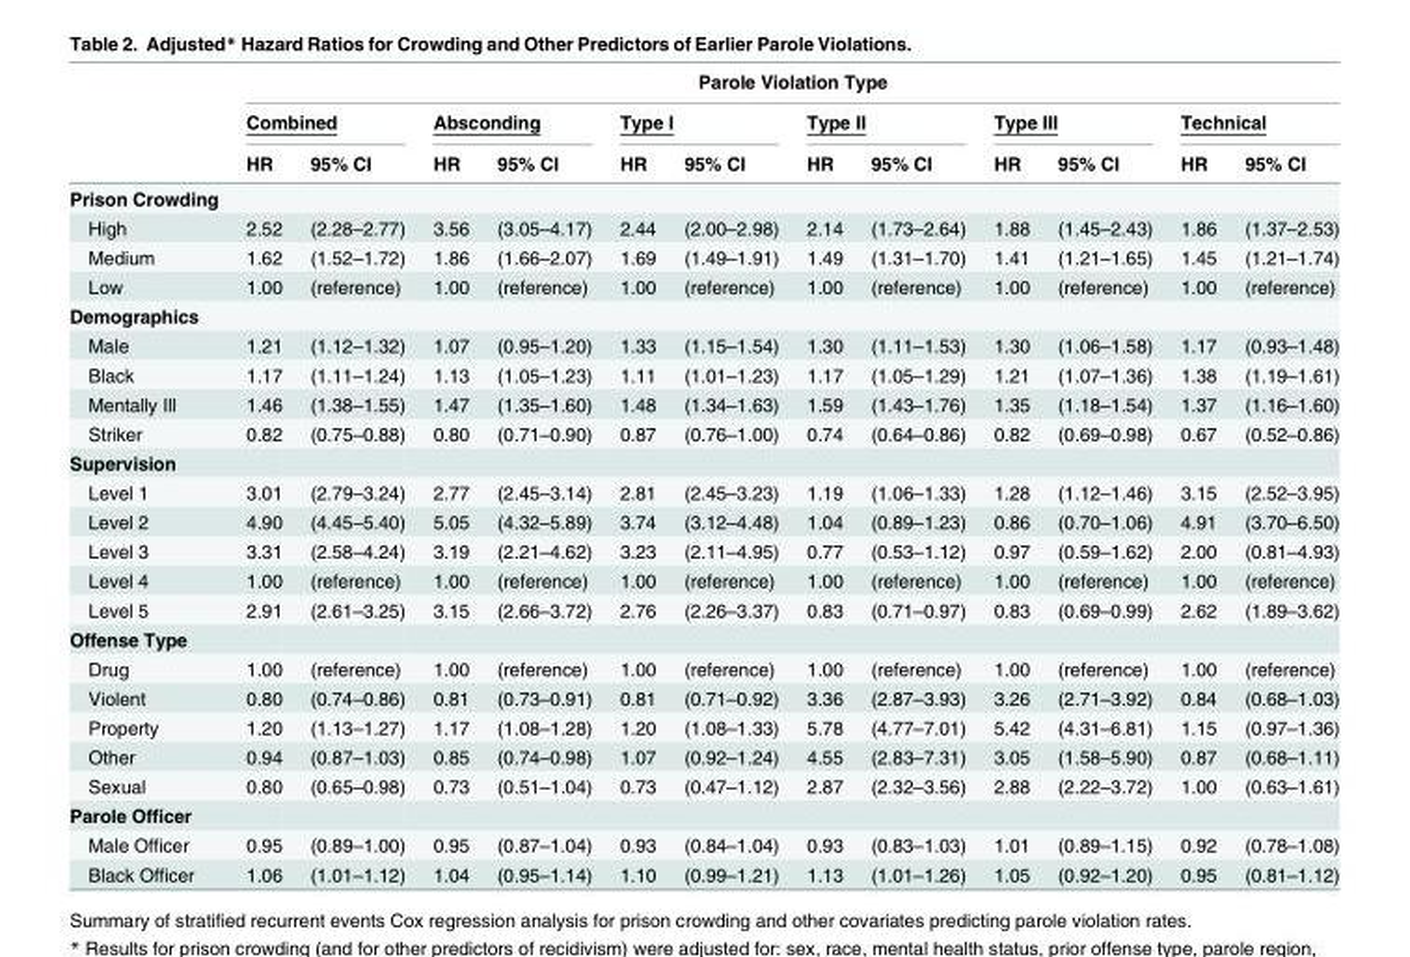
<table><thead><tr><td rowspan="3"></td><td colspan="12">Parole Violation Type</td></tr><tr><td colspan="2">Combined</td><td colspan="2">Absconding</td><td colspan="2">Type I</td><td colspan="2">Type II</td><td colspan="2">Type III</td><td colspan="2">Technical</td></tr><tr><td>HR</td><td>95% CI</td><td>HR</td><td>95% CI</td><td>HR</td><td>95% CI</td><td>HR</td><td>95% CI</td><td>HR</td><td>95% CI</td><td>HR</td><td>95% CI</td></tr></thead><tbody><tr><td colspan="13">Prison Crowding</td></tr><tr><td>High</td><td>2.52</td><td>(2.28–2.77)</td><td>3.56</td><td>(3.05–4.17)</td><td>2.44</td><td>(2.00–2.98)</td><td>2.14</td><td>(1.73–2.64)</td><td>1.88</td><td>(1.45–2.43)</td><td>1.86</td><td>(1.37–2.53)</td></tr><tr><td>Medium</td><td>1.62</td><td>(1.52–1.72)</td><td>1.86</td><td>(1.66–2.07)</td><td>1.69</td><td>(1.49–1.91)</td><td>1.49</td><td>(1.31–1.70)</td><td>1.41</td><td>(1.21–1.65)</td><td>1.45</td><td>(1.21–1.74)</td></tr><tr><td>Low</td><td>1.00</td><td>(reference)</td><td>1.00</td><td>(reference)</td><td>1.00</td><td>(reference)</td><td>1.00</td><td>(reference)</td><td>1.00</td><td>(reference)</td><td>1.00</td><td>(reference)</td></tr><tr><td colspan="13">Demographics</td></tr><tr><td>Male</td><td>1.21</td><td>(1.12–1.32)</td><td>1.07</td><td>(0.95–1.20)</td><td>1.33</td><td>(1.15–1.54)</td><td>1.30</td><td>(1.11–1.53)</td><td>1.30</td><td>(1.06–1.58)</td><td>1.17</td><td>(0.93–1.48)</td></tr><tr><td>Black</td><td>1.17</td><td>(1.11–1.24)</td><td>1.13</td><td>(1.05–1.23)</td><td>1.11</td><td>(1.01–1.23)</td><td>1.17</td><td>(1.05–1.29)</td><td>1.21</td><td>(1.07–1.36)</td><td>1.38</td><td>(1.19–1.61)</td></tr><tr><td>Mentally Ill</td><td>1.46</td><td>(1.38–1.55)</td><td>1.47</td><td>(1.35–1.60)</td><td>1.48</td><td>(1.34–1.63)</td><td>1.59</td><td>(1.43–1.76)</td><td>1.35</td><td>(1.18–1.54)</td><td>1.37</td><td>(1.16–1.60)</td></tr><tr><td>Striker</td><td>0.82</td><td>(0.75–0.88)</td><td>0.80</td><td>(0.71–0.90)</td><td>0.87</td><td>(0.76–1.00)</td><td>0.74</td><td>(0.64–0.86)</td><td>0.82</td><td>(0.69–0.98)</td><td>0.67</td><td>(0.52–0.86)</td></tr><tr><td colspan="13">Supervision</td></tr><tr><td>Level 1</td><td>3.01</td><td>(2.79–3.24)</td><td>2.77</td><td>(2.45–3.14)</td><td>2.81</td><td>(2.45–3.23)</td><td>1.19</td><td>(1.06–1.33)</td><td>1.28</td><td>(1.12–1.46)</td><td>3.15</td><td>(2.52–3.95)</td></tr><tr><td>Level 2</td><td>4.90</td><td>(4.45–5.40)</td><td>5.05</td><td>(4.32–5.89)</td><td>3.74</td><td>(3.12–4.48)</td><td>1.04</td><td>(0.89–1.23)</td><td>0.86</td><td>(0.70–1.06)</td><td>4.91</td><td>(3.70–6.50)</td></tr><tr><td>Level 3</td><td>3.31</td><td>(2.58–4.24)</td><td>3.19</td><td>(2.21–4.62)</td><td>3.23</td><td>(2.11–4.95)</td><td>0.77</td><td>(0.53–1.12)</td><td>0.97</td><td>(0.59–1.62)</td><td>2.00</td><td>(0.81–4.93)</td></tr><tr><td>Level 4</td><td>1.00</td><td>(reference)</td><td>1.00</td><td>(reference)</td><td>1.00</td><td>(reference)</td><td>1.00</td><td>(reference)</td><td>1.00</td><td>(reference)</td><td>1.00</td><td>(reference)</td></tr><tr><td>Level 5</td><td>2.91</td><td>(2.61–3.25)</td><td>3.15</td><td>(2.66–3.72)</td><td>2.76</td><td>(2.26–3.37)</td><td>0.83</td><td>(0.71–0.97)</td><td>0.83</td><td>(0.69–0.99)</td><td>2.62</td><td>(1.89–3.62)</td></tr><tr><td colspan="13">Offense Type</td></tr><tr><td>Drug</td><td>1.00</td><td>(reference)</td><td>1.00</td><td>(reference)</td><td>1.00</td><td>(reference)</td><td>1.00</td><td>(reference)</td><td>1.00</td><td>(reference)</td><td>1.00</td><td>(reference)</td></tr><tr><td>Violent</td><td>0.80</td><td>(0.74–0.86)</td><td>0.81</td><td>(0.73–0.91)</td><td>0.81</td><td>(0.71–0.92)</td><td>3.36</td><td>(2.87–3.93)</td><td>3.26</td><td>(2.71–3.92)</td><td>0.84</td><td>(0.68–1.03)</td></tr><tr><td>Property</td><td>1.20</td><td>(1.13–1.27)</td><td>1.17</td><td>(1.08–1.28)</td><td>1.20</td><td>(1.08–1.33)</td><td>5.78</td><td>(4.77–7.01)</td><td>5.42</td><td>(4.31–6.81)</td><td>1.15</td><td>(0.97–1.36)</td></tr><tr><td>Other</td><td>0.94</td><td>(0.87–1.03)</td><td>0.85</td><td>(0.74–0.98)</td><td>1.07</td><td>(0.92–1.24)</td><td>4.55</td><td>(2.83–7.31)</td><td>3.05</td><td>(1.58–5.90)</td><td>0.87</td><td>(0.68–1.11)</td></tr><tr><td>Sexual</td><td>0.80</td><td>(0.65–0.98)</td><td>0.73</td><td>(0.51–1.04)</td><td>0.73</td><td>(0.47–1.12)</td><td>2.87</td><td>(2.32–3.56)</td><td>2.88</td><td>(2.22–3.72)</td><td>1.00</td><td>(0.63–1.61)</td></tr><tr><td colspan="13">Parole Officer</td></tr><tr><td>Male Officer</td><td>0.95</td><td>(0.89–1.00)</td><td>0.95</td><td>(0.87–1.04)</td><td>0.93</td><td>(0.84–1.04)</td><td>0.93</td><td>(0.83–1.03)</td><td>1.01</td><td>(0.89–1.15)</td><td>0.92</td><td>(0.78–1.08)</td></tr><tr><td>Black Officer</td><td>1.06</td><td>(1.01–1.12)</td><td>1.04</td><td>(0.95–1.14)</td><td>1.10</td><td>(0.99–1.21)</td><td>1.13</td><td>(1.01–1.26)</td><td>1.05</td><td>(0.92–1.20)</td><td>0.95</td><td>(0.81–1.12)</td></tr></tbody></table>